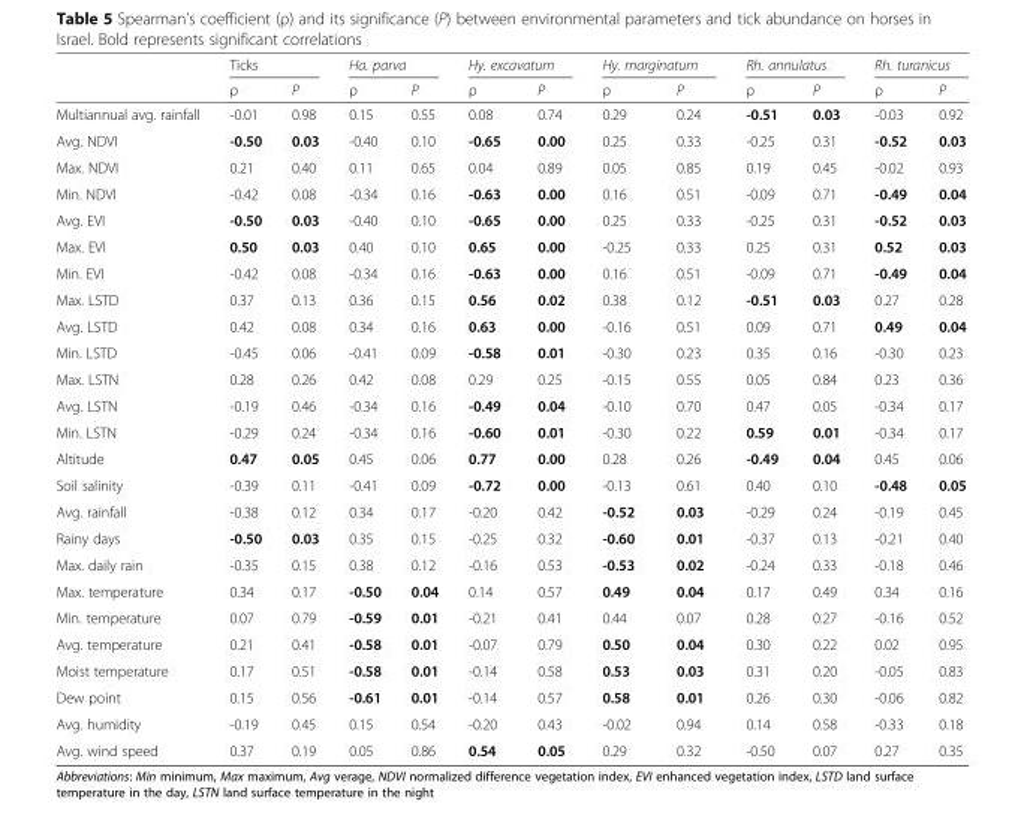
<table><thead><tr><td rowspan="2"></td><td colspan="2">Ticks</td><td colspan="2">Ha. parva</td><td colspan="2">Hy. excavatum</td><td colspan="2">Hy. marginatum</td><td colspan="2">Rh. annulatus</td><td colspan="2">Rh. turanicus</td></tr><tr><td>ρ</td><td>P</td><td>ρ</td><td>P</td><td>ρ</td><td>P</td><td>ρ</td><td>P</td><td>ρ</td><td>P</td><td>ρ</td><td>P</td></tr></thead><tbody><tr><td>Multiannual avg. rainfall</td><td>-0.01</td><td>0.98</td><td>0.15</td><td>0.55</td><td>0.08</td><td>0.74</td><td>0.29</td><td>0.24</td><td>-0.51</td><td>0.03</td><td>-0.03</td><td>0.92</td></tr><tr><td>Avg. NDVI</td><td>-0.50</td><td>0.03</td><td>-0.40</td><td>0.10</td><td>-0.65</td><td>0.00</td><td>0.25</td><td>0.33</td><td>-0.25</td><td>0.31</td><td>-0.52</td><td>0.03</td></tr><tr><td>Max. NDVI</td><td>0.21</td><td>0.40</td><td>0.11</td><td>0.65</td><td>0.04</td><td>0.89</td><td>0.05</td><td>0.85</td><td>0.19</td><td>0.45</td><td>-0.02</td><td>0.93</td></tr><tr><td>Min. NDVI</td><td>-0.42</td><td>0.08</td><td>-0.34</td><td>0.16</td><td>-0.63</td><td>0.00</td><td>0.16</td><td>0.51</td><td>-0.09</td><td>0.71</td><td>-0.49</td><td>0.04</td></tr><tr><td>Avg. EVI</td><td>-0.50</td><td>0.03</td><td>-0.40</td><td>0.10</td><td>-0.65</td><td>0.00</td><td>0.25</td><td>0.33</td><td>-0.25</td><td>0.31</td><td>-0.52</td><td>0.03</td></tr><tr><td>Max. EVI</td><td>0.50</td><td>0.03</td><td>0.40</td><td>0.10</td><td>0.65</td><td>0.00</td><td>-0.25</td><td>0.33</td><td>0.25</td><td>0.31</td><td>0.52</td><td>0.03</td></tr><tr><td>Min. EVI</td><td>-0.42</td><td>0.08</td><td>-0.34</td><td>0.16</td><td>-0.63</td><td>0.00</td><td>0.16</td><td>0.51</td><td>-0.09</td><td>0.71</td><td>-0.49</td><td>0.04</td></tr><tr><td>Max. LSTD</td><td>0.37</td><td>0.13</td><td>0.36</td><td>0.15</td><td>0.56</td><td>0.02</td><td>0.38</td><td>0.12</td><td>-0.51</td><td>0.03</td><td>0.27</td><td>0.28</td></tr><tr><td>Avg. LSTD</td><td>0.42</td><td>0.08</td><td>0.34</td><td>0.16</td><td>0.63</td><td>0.00</td><td>-0.16</td><td>0.51</td><td>0.09</td><td>0.71</td><td>0.49</td><td>0.04</td></tr><tr><td>Min. LSTD</td><td>-0.45</td><td>0.06</td><td>-0.41</td><td>0.09</td><td>-0.58</td><td>0.01</td><td>-0.30</td><td>0.23</td><td>0.35</td><td>0.16</td><td>-0.30</td><td>0.23</td></tr><tr><td>Max. LSTN</td><td>0.28</td><td>0.26</td><td>0.42</td><td>0.08</td><td>0.29</td><td>0.25</td><td>-0.15</td><td>0.55</td><td>0.05</td><td>0.84</td><td>0.23</td><td>0.36</td></tr><tr><td>Avg. LSTN</td><td>-0.19</td><td>0.46</td><td>-0.34</td><td>0.16</td><td>-0.49</td><td>0.04</td><td>-0.10</td><td>0.70</td><td>0.47</td><td>0.05</td><td>-0.34</td><td>0.17</td></tr><tr><td>Min. LSTN</td><td>-0.29</td><td>0.24</td><td>-0.34</td><td>0.16</td><td>-0.60</td><td>0.01</td><td>-0.30</td><td>0.22</td><td>0.59</td><td>0.01</td><td>-0.34</td><td>0.17</td></tr><tr><td>Altitude</td><td>0.47</td><td>0.05</td><td>0.45</td><td>0.06</td><td>0.77</td><td>0.00</td><td>0.28</td><td>0.26</td><td>-0.49</td><td>0.04</td><td>0.45</td><td>0.06</td></tr><tr><td>Soil salinity</td><td>-0.39</td><td>0.11</td><td>-0.41</td><td>0.09</td><td>-0.72</td><td>0.00</td><td>-0.13</td><td>0.61</td><td>0.40</td><td>0.10</td><td>-0.48</td><td>0.05</td></tr><tr><td>Avg. rainfall</td><td>-0.38</td><td>0.12</td><td>0.34</td><td>0.17</td><td>-0.20</td><td>0.42</td><td>-0.52</td><td>0.03</td><td>-0.29</td><td>0.24</td><td>-0.19</td><td>0.45</td></tr><tr><td>Rainy days</td><td>-0.50</td><td>0.03</td><td>0.35</td><td>0.15</td><td>-0.25</td><td>0.32</td><td>-0.60</td><td>0.01</td><td>-0.37</td><td>0.13</td><td>-0.21</td><td>0.40</td></tr><tr><td>Max. daily rain</td><td>-0.35</td><td>0.15</td><td>0.38</td><td>0.12</td><td>-0.16</td><td>0.53</td><td>-0.53</td><td>0.02</td><td>-0.24</td><td>0.33</td><td>-0.18</td><td>0.46</td></tr><tr><td>Max. temperature</td><td>0.34</td><td>0.17</td><td>-0.50</td><td>0.04</td><td>0.14</td><td>0.57</td><td>0.49</td><td>0.04</td><td>0.17</td><td>0.49</td><td>0.34</td><td>0.16</td></tr><tr><td>Min. temperature</td><td>0.07</td><td>0.79</td><td>-0.59</td><td>0.01</td><td>-0.21</td><td>0.41</td><td>0.44</td><td>0.07</td><td>0.28</td><td>0.27</td><td>-0.16</td><td>0.52</td></tr><tr><td>Avg. temperature</td><td>0.21</td><td>0.41</td><td>-0.58</td><td>0.01</td><td>-0.07</td><td>0.79</td><td>0.50</td><td>0.04</td><td>0.30</td><td>0.22</td><td>0.02</td><td>0.95</td></tr><tr><td>Moist temperature</td><td>0.17</td><td>0.51</td><td>-0.58</td><td>0.01</td><td>-0.14</td><td>0.58</td><td>0.53</td><td>0.03</td><td>0.31</td><td>0.20</td><td>-0.05</td><td>0.83</td></tr><tr><td>Dew point</td><td>0.15</td><td>0.56</td><td>-0.61</td><td>0.01</td><td>-0.14</td><td>0.57</td><td>0.58</td><td>0.01</td><td>0.26</td><td>0.30</td><td>-0.06</td><td>0.82</td></tr><tr><td>Avg. humidity</td><td>-0.19</td><td>0.45</td><td>0.15</td><td>0.54</td><td>-0.20</td><td>0.43</td><td>-0.02</td><td>0.94</td><td>0.14</td><td>0.58</td><td>-0.33</td><td>0.18</td></tr><tr><td>Avg. wind speed</td><td>0.37</td><td>0.19</td><td>0.05</td><td>0.86</td><td>0.54</td><td>0.05</td><td>0.29</td><td>0.32</td><td>-0.50</td><td>0.07</td><td>0.27</td><td>0.35</td></tr></tbody></table>